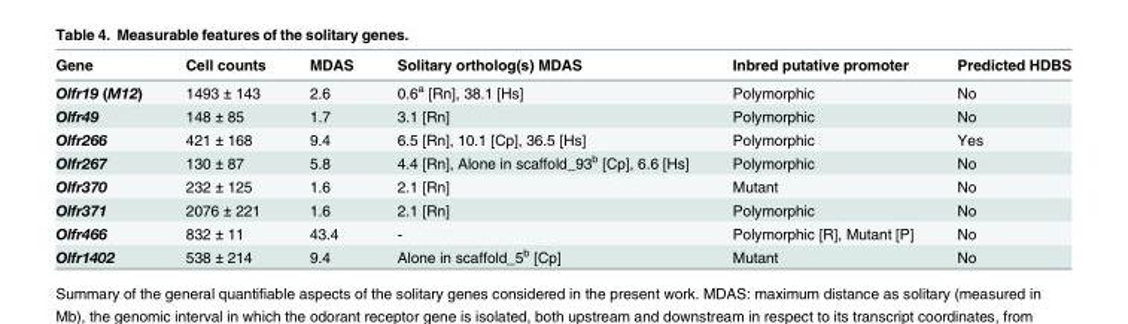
<table><thead><tr><td>Gene</td><td>Cell counts</td><td>MDAS</td><td>Solitary ortholog(s) MDAS</td><td>Inbred putative promoter</td><td>Predicted HDBS</td></tr></thead><tbody><tr><td>Olfr19 (M12)</td><td>1493 ± 143</td><td>2.6</td><td>0.6<sup>a</sup> [Rn], 38.1 [Hs]</td><td>Polymorphic</td><td>No</td></tr><tr><td>Olfr49</td><td>148 ± 85</td><td>1.7</td><td>3.1 [Rn]</td><td>Polymorphic</td><td>No</td></tr><tr><td>Olfr266</td><td>421 ± 168</td><td>9.4</td><td>6.5 [Rn], 10.1 [Cp], 36.5 [Hs]</td><td>Polymorphic</td><td>Yes</td></tr><tr><td>Olfr267</td><td>130 ± 87</td><td>5.8</td><td>4.4 [Rn], Alone in scaffold_93<sup>b</sup> [Cp], 6.6 [Hs]</td><td>Polymorphic</td><td>No</td></tr><tr><td>Olfr370</td><td>232 ± 125</td><td>1.6</td><td>2.1 [Rn]</td><td>Mutant</td><td>No</td></tr><tr><td>Olfr371</td><td>2076 ± 221</td><td>1.6</td><td>2.1 [Rn]</td><td>Polymorphic</td><td>No</td></tr><tr><td>Olfr466</td><td>832 ± 11</td><td>43.4</td><td>-</td><td>Polymorphic [R], Mutant [P]</td><td>No</td></tr><tr><td>Olfr1402</td><td>538 ± 214</td><td>9.4</td><td>Alone in scaffold_5<sup>b</sup> [Cp]</td><td>Mutant</td><td>No</td></tr></tbody></table>